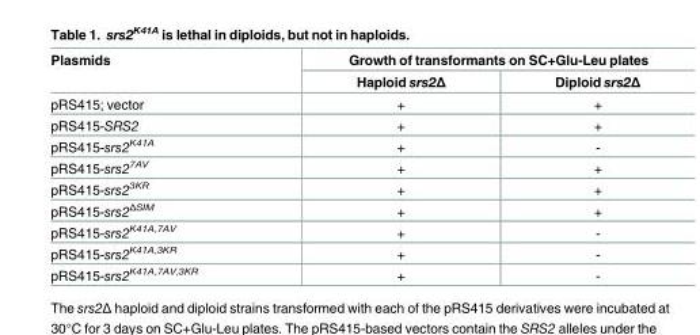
<table><thead><tr><td rowspan="2">Plasmids</td><td colspan="2">Growth of transformants on SC+Glu-Leu plates</td></tr><tr><td>Haploid srs2Δ</td><td>Diploid srs2Δ</td></tr></thead><tbody><tr><td>pRS415; vector</td><td>+</td><td>+</td></tr><tr><td>pRS415-SRS2</td><td>+</td><td>+</td></tr><tr><td>pRS415-srs2<sup>K41A</sup></td><td>+</td><td>-</td></tr><tr><td>pRS415-srs2<sup>7AV</sup></td><td>+</td><td>+</td></tr><tr><td>pRS415-srs2<sup>3KR</sup></td><td>+</td><td>+</td></tr><tr><td>pRS415-srs2<sup>ΔSIM</sup></td><td>+</td><td>+</td></tr><tr><td>pRS415-srs2<sup>K41A,7AV</sup></td><td>+</td><td>-</td></tr><tr><td>pRS415-srs2<sup>K41A,3KR</sup></td><td>+</td><td>-</td></tr><tr><td>pRS415-srs2<sup>K41A,7AV,3KR</sup></td><td>+</td><td>-</td></tr></tbody></table>